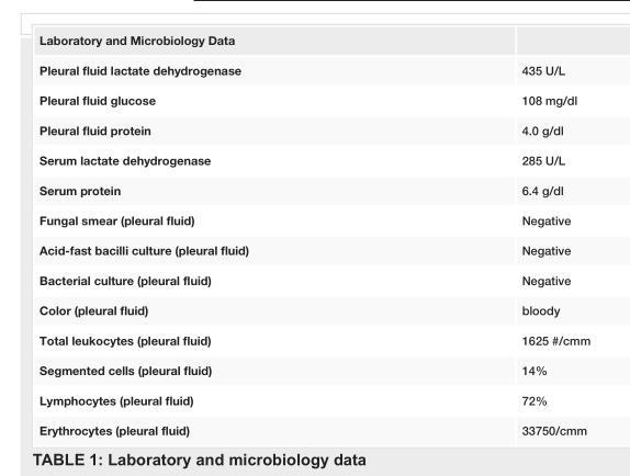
<table><tbody><tr><td colspan="2">Laboratory and Microbiology Data</td></tr><tr><td>Pleural fluid lactate dehydrogenase</td><td>435 U/L</td></tr><tr><td>Pleural fluid glucose</td><td>108 mg/dl</td></tr><tr><td>Pleural fluid protein</td><td>4.0 g/dl</td></tr><tr><td>Serum lactate dehydrogenase</td><td>285 U/L</td></tr><tr><td>Serum protein</td><td>6.4 g/dl</td></tr><tr><td>Fungal smear (pleural fluid)</td><td>Negative</td></tr><tr><td>Acid-fast bacilli culture (pleural fluid)</td><td>Negative</td></tr><tr><td>Bacterial culture (pleural fluid)</td><td>Negative</td></tr><tr><td>Color (pleural fluid)</td><td>bloody</td></tr><tr><td>Total leukocytes (pleural fluid)</td><td>1625 #/cmm</td></tr><tr><td>Segmented cells (pleural fluid)</td><td>14%</td></tr><tr><td>Lymphocytes (pleural fluid)</td><td>72%</td></tr><tr><td>Erythrocytes (pleural fluid)</td><td>33750/cmm</td></tr></tbody></table>